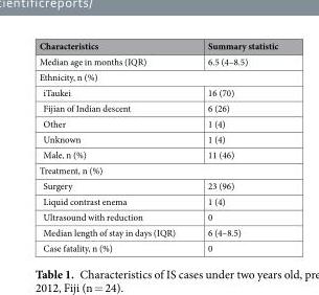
<table><thead><tr><td>Characteristics</td><td>Summary statistic</td></tr></thead><tbody><tr><td>Median age in months (IQR)</td><td>6.5 (4–8.5)</td></tr><tr><td colspan="2">Ethnicity, n (%)</td></tr><tr><td>iTaukei</td><td>16 (70)</td></tr><tr><td>Fijian of Indian descent</td><td>6 (26)</td></tr><tr><td>Other</td><td>1 (4)</td></tr><tr><td>Unknown</td><td>1 (4)</td></tr><tr><td>Male, n (%)</td><td>11 (46)</td></tr><tr><td colspan="2">Treatment, n (%)</td></tr><tr><td>Surgery</td><td>23 (96)</td></tr><tr><td>Liquid contrast enema</td><td>1 (4)</td></tr><tr><td>Ultrasound with reduction</td><td>0</td></tr><tr><td>Median length of stay in days (IQR)</td><td>6 (4–8.5)</td></tr><tr><td>Case fatality, n (%)</td><td>0</td></tr></tbody></table>